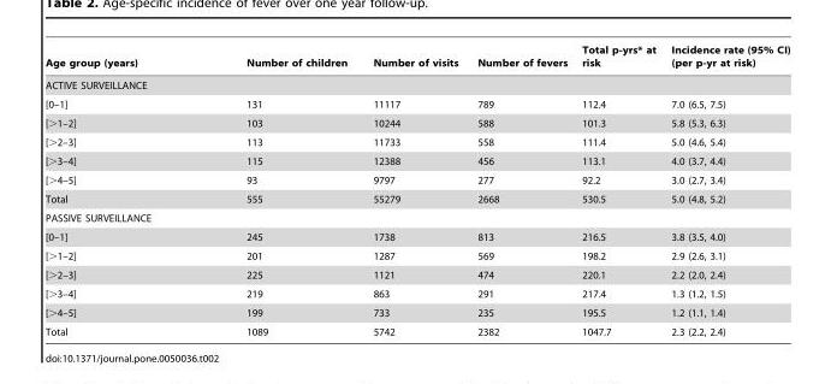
<table><thead><tr><td>Age group (years)</td><td>Number of children</td><td>Number of visits</td><td>Number of fevers</td><td>Total p-yrs* at risk</td><td>Incidence rate (95% CI) (per p-yr at risk)</td></tr></thead><tbody><tr><td colspan="6">ACTIVE SURVEILLANCE</td></tr><tr><td>[0–1]</td><td>131</td><td>11117</td><td>789</td><td>112.4</td><td>7.0 (6.5, 7.5)</td></tr><tr><td>[&gt;1–2]</td><td>103</td><td>10244</td><td>588</td><td>101.3</td><td>5.8 (5.3, 6.3)</td></tr><tr><td>[&gt;2–3]</td><td>113</td><td>11733</td><td>558</td><td>111.4</td><td>5.0 (4.6, 5.4)</td></tr><tr><td>[&gt;3–4]</td><td>115</td><td>12388</td><td>456</td><td>113.1</td><td>4.0 (3.7, 4.4)</td></tr><tr><td>[&gt;4–5]</td><td>93</td><td>9797</td><td>277</td><td>92.2</td><td>3.0 (2.7, 3.4)</td></tr><tr><td>Total</td><td>555</td><td>55279</td><td>2668</td><td>530.5</td><td>5.0 (4.8, 5.2)</td></tr><tr><td colspan="6">PASSIVE SURVEILLANCE</td></tr><tr><td>[0–1]</td><td>245</td><td>1738</td><td>813</td><td>216.5</td><td>3.8 (3.5, 4.0)</td></tr><tr><td>[&gt;1–2]</td><td>201</td><td>1287</td><td>569</td><td>198.2</td><td>2.9 (2.6, 3.1)</td></tr><tr><td>[&gt;2–3]</td><td>225</td><td>1121</td><td>474</td><td>220.1</td><td>2.2 (2.0, 2.4)</td></tr><tr><td>[&gt;3–4]</td><td>219</td><td>863</td><td>291</td><td>217.4</td><td>1.3 (1.2, 1.5)</td></tr><tr><td>[&gt;4–5]</td><td>199</td><td>733</td><td>235</td><td>195.5</td><td>1.2 (1.1, 1.4)</td></tr><tr><td>Total</td><td>1089</td><td>5742</td><td>2382</td><td>1047.7</td><td>2.3 (2.2, 2.4)</td></tr></tbody></table>